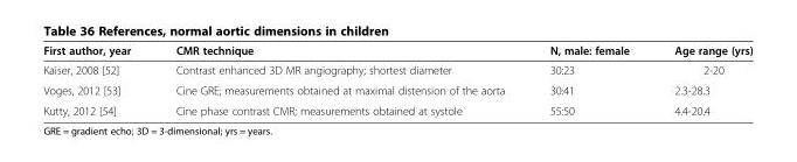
<table><thead><tr><td>First author, year</td><td>CMR technique</td><td>N, male: female</td><td>Age range (yrs)</td></tr></thead><tbody><tr><td>Kaiser, 2008 [52]</td><td>Contrast enhanced 3D MR angiography; shortest diameter</td><td>30:23</td><td>2-20</td></tr><tr><td>Voges, 2012 [53]</td><td>Cine GRE; measurements obtained at maximal distension of the aorta</td><td>30:41</td><td>2.3-28.3</td></tr><tr><td>Kutty, 2012 [54]</td><td>Cine phase contrast CMR; measurements obtained at systole</td><td>55:50</td><td>4.4-20.4</td></tr></tbody></table>